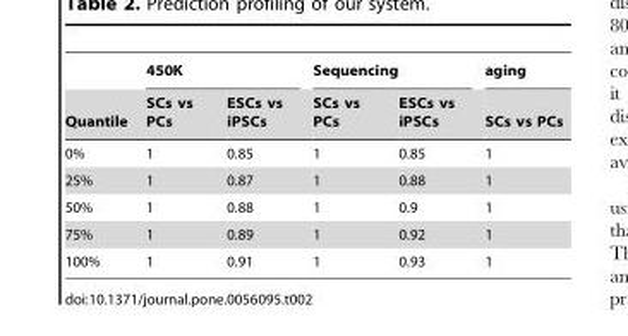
<table><thead><tr><td rowspan="2">Quantile</td><td colspan="2">450K</td><td colspan="2">Sequencing</td><td rowspan="2">aging SCs vs PCs</td></tr><tr><td>SCs vs PCs</td><td>ESCs vs iPSCs</td><td>SCs vs PCs</td><td>ESCs vs iPSCs</td></tr></thead><tbody><tr><td>0%</td><td>1</td><td>0.85</td><td>1</td><td>0.85</td><td>1</td></tr><tr><td>25%</td><td>1</td><td>0.87</td><td>1</td><td>0.88</td><td>1</td></tr><tr><td>50%</td><td>1</td><td>0.88</td><td>1</td><td>0.9</td><td>1</td></tr><tr><td>75%</td><td>1</td><td>0.89</td><td>1</td><td>0.92</td><td>1</td></tr><tr><td>100%</td><td>1</td><td>0.91</td><td>1</td><td>0.93</td><td>1</td></tr></tbody></table>